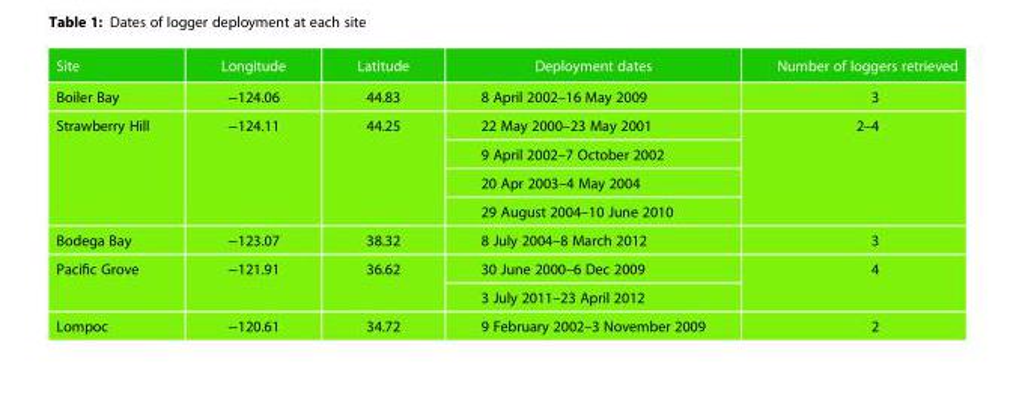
<table><thead><tr><td>Site</td><td>Longitude</td><td>Latitude</td><td>Deployment dates</td><td>Number of loggers retrieved</td></tr></thead><tbody><tr><td>Boiler Bay</td><td>−124.06</td><td>44.83</td><td>8 April 2002–16 May 2009</td><td>3</td></tr><tr><td rowspan="4">Strawberry Hill</td><td rowspan="4">−124.11</td><td rowspan="4">44.25</td><td>22 May 2000–23 May 2001</td><td rowspan="4">2–4</td></tr><tr><td>9 April 2002–7 October 2002</td></tr><tr><td>20 Apr 2003–4 May 2004</td></tr><tr><td>29 August 2004–10 June 2010</td></tr><tr><td>Bodega Bay</td><td>−123.07</td><td>38.32</td><td>8 July 2004–8 March 2012</td><td>3</td></tr><tr><td rowspan="2">Pacific Grove</td><td rowspan="2">−121.91</td><td rowspan="2">36.62</td><td>30 June 2000–6 Dec 2009</td><td rowspan="2">4</td></tr><tr><td>3 July 2011–23 April 2012</td></tr><tr><td>Lompoc</td><td>−120.61</td><td>34.72</td><td>9 February 2002–3 November 2009</td><td>2</td></tr></tbody></table>